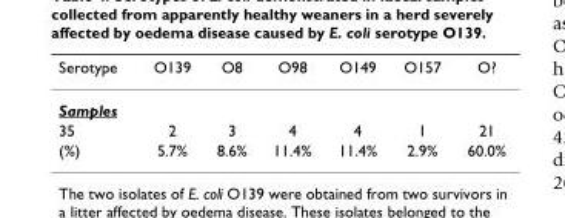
<table><thead><tr><td>Serotype</td><td>O139</td><td>O8</td><td>O98</td><td>O149</td><td>O157</td><td>O?</td></tr></thead><tbody><tr><td colspan="7">Samples</td></tr><tr><td>35</td><td>2</td><td>3</td><td>4</td><td>4</td><td>1</td><td>21</td></tr><tr><td>(%)</td><td>5.7%</td><td>8.6%</td><td>11.4%</td><td>11.4%</td><td>2.9%</td><td>60.0%</td></tr></tbody></table>